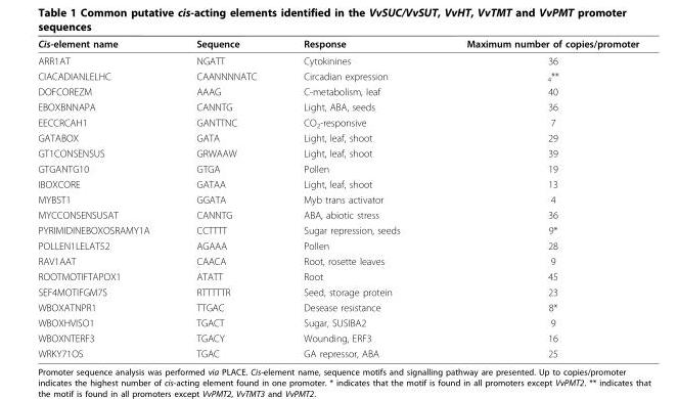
<table><thead><tr><td>Cis-element name</td><td>Sequence</td><td>Response</td><td>Maximum number of copies/promoter</td></tr></thead><tbody><tr><td>ARR1AT</td><td>NGATT</td><td>Cytokinines</td><td>36</td></tr><tr><td>CIACADIANLELHC</td><td>CAANNNNATC</td><td>Circadian expression</td><td><sub>4</sub>**</td></tr><tr><td>DOFCOREZM</td><td>AAAG</td><td>C-metabolism, leaf</td><td>40</td></tr><tr><td>EBOXBNNAPA</td><td>CANNTG</td><td>Light, ABA, seeds</td><td>36</td></tr><tr><td>EECCRCAH1</td><td>GANTTNC</td><td>CO<sub>2</sub>-responsive</td><td>7</td></tr><tr><td>GATABOX</td><td>GATA</td><td>Light, leaf, shoot</td><td>29</td></tr><tr><td>GT1CONSENSUS</td><td>GRWAAW</td><td>Light, leaf, shoot</td><td>39</td></tr><tr><td>GTGANTG10</td><td>GTGA</td><td>Pollen</td><td>19</td></tr><tr><td>IBOXCORE</td><td>GATAA</td><td>Light, leaf, shoot</td><td>13</td></tr><tr><td>MYBST1</td><td>GGATA</td><td>Myb trans activator</td><td>4</td></tr><tr><td>MYCCONSENSUSAT</td><td>CANNTG</td><td>ABA, abiotic stress</td><td>36</td></tr><tr><td>PYRIMIDINEBOXOSRAMY1A</td><td>CCTTTT</td><td>Sugar repression, seeds</td><td>9*</td></tr><tr><td>POLLEN1LELAT52</td><td>AGAAA</td><td>Pollen</td><td>28</td></tr><tr><td>RAV1AAT</td><td>CAACA</td><td>Root, rosette leaves</td><td>9</td></tr><tr><td>ROOTMOTIFTAPOX1</td><td>ATATT</td><td>Root</td><td>45</td></tr><tr><td>SEF4MOTIFGM7S</td><td>RTTTTTR</td><td>Seed, storage protein</td><td>23</td></tr><tr><td>WBOXATNPR1</td><td>TTGAC</td><td>Desease resistance</td><td>8*</td></tr><tr><td>WBOXHVISO1</td><td>TGACT</td><td>Sugar, SUSIBA2</td><td>9</td></tr><tr><td>WBOXNTERF3</td><td>TGACY</td><td>Wounding, ERF3</td><td>16</td></tr><tr><td>WRKY71OS</td><td>TGAC</td><td>GA repressor, ABA</td><td>25</td></tr></tbody></table>